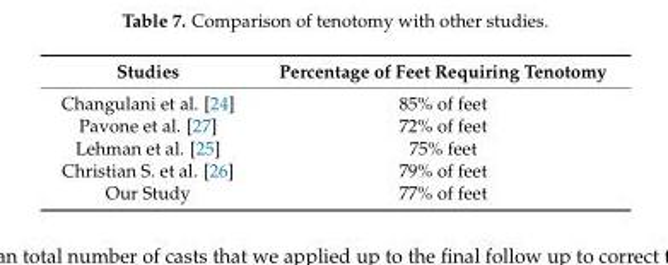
<table><thead><tr><td>Studies</td><td>Percentage of Feet Requiring Tenotomy</td></tr></thead><tbody><tr><td>Changulani et al. [24]</td><td>85% of feet</td></tr><tr><td>Pavone et al. [27]</td><td>72% of feet</td></tr><tr><td>Lehman et al. [25]</td><td>75% feet</td></tr><tr><td>Christian S. et al. [26]</td><td>79% of feet</td></tr><tr><td>Our Study</td><td>77% of feet</td></tr></tbody></table>